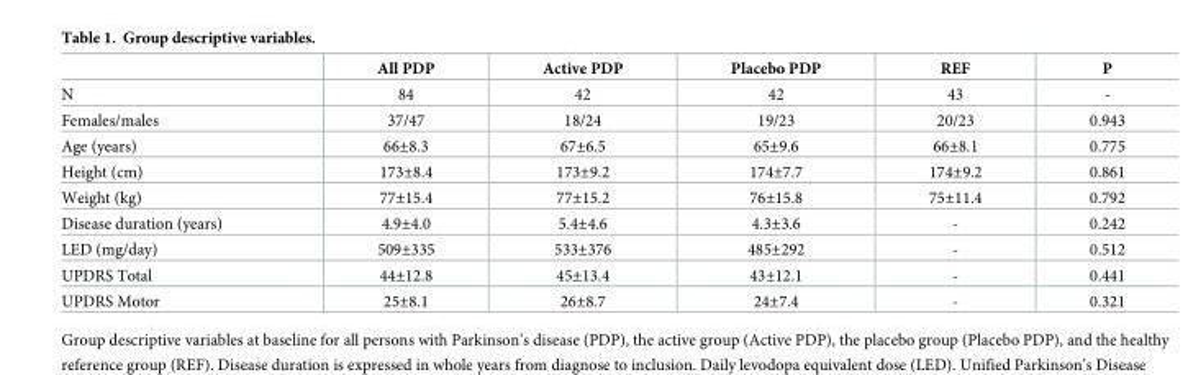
<table><thead><tr><td></td><td>All PDP</td><td>Active PDP</td><td>Placebo PDP</td><td>REF</td><td>P</td></tr></thead><tbody><tr><td>N</td><td>84</td><td>42</td><td>42</td><td>43</td><td>-</td></tr><tr><td>Females/males</td><td>37/47</td><td>18/24</td><td>19/23</td><td>20/23</td><td>0.943</td></tr><tr><td>Age (years)</td><td>66±8.3</td><td>67±6.5</td><td>65±9.6</td><td>66±8.1</td><td>0.775</td></tr><tr><td>Height (cm)</td><td>173±8.4</td><td>173±9.2</td><td>174±7.7</td><td>174±9.2</td><td>0.861</td></tr><tr><td>Weight (kg)</td><td>77±15.4</td><td>77±15.2</td><td>76±15.8</td><td>75±11.4</td><td>0.792</td></tr><tr><td>Disease duration (years)</td><td>4.9±4.0</td><td>5.4±4.6</td><td>4.3±3.6</td><td>-</td><td>0.242</td></tr><tr><td>LED (mg/day)</td><td>509±335</td><td>533±376</td><td>485±292</td><td>-</td><td>0.512</td></tr><tr><td>UPDRS Total</td><td>44±12.8</td><td>45±13.4</td><td>43±12.1</td><td>-</td><td>0.441</td></tr><tr><td>UPDRS Motor</td><td>25±8.1</td><td>26±8.7</td><td>24±7.4</td><td>-</td><td>0.321</td></tr></tbody></table>